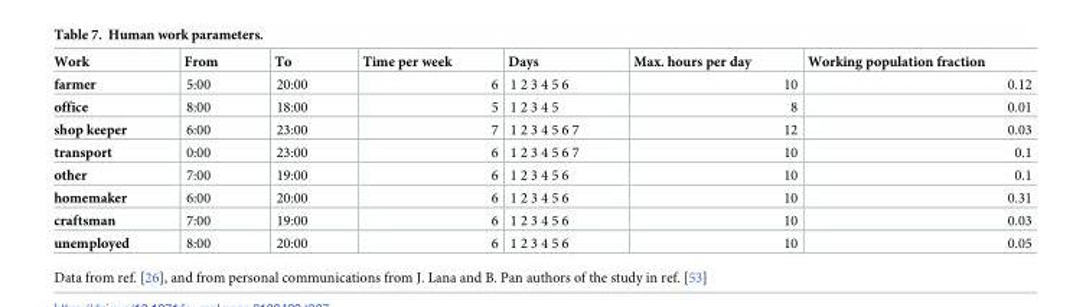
<table><thead><tr><td>Work</td><td>From</td><td>To</td><td>Time per week</td><td>Days</td><td>Max. hours per day</td><td>Working population fraction</td></tr></thead><tbody><tr><td>farmer</td><td>5:00</td><td>20:00</td><td>6</td><td>1 2 3 4 5 6</td><td>10</td><td>0.12</td></tr><tr><td>office</td><td>8:00</td><td>18:00</td><td>5</td><td>1 2 3 4 5</td><td>8</td><td>0.01</td></tr><tr><td>shop keeper</td><td>6:00</td><td>23:00</td><td>7</td><td>1 2 3 4 5 6 7</td><td>12</td><td>0.03</td></tr><tr><td>transport</td><td>0:00</td><td>23:00</td><td>6</td><td>1 2 3 4 5 6 7</td><td>10</td><td>0.1</td></tr><tr><td>other</td><td>7:00</td><td>19:00</td><td>6</td><td>1 2 3 4 5 6</td><td>10</td><td>0.1</td></tr><tr><td>homemaker</td><td>6:00</td><td>20:00</td><td>6</td><td>1 2 3 4 5 6</td><td>10</td><td>0.31</td></tr><tr><td>craftsman</td><td>7:00</td><td>19:00</td><td>6</td><td>1 2 3 4 5 6</td><td>10</td><td>0.03</td></tr><tr><td>unemployed</td><td>8:00</td><td>20:00</td><td>6</td><td>1 2 3 4 5 6</td><td>10</td><td>0.05</td></tr></tbody></table>